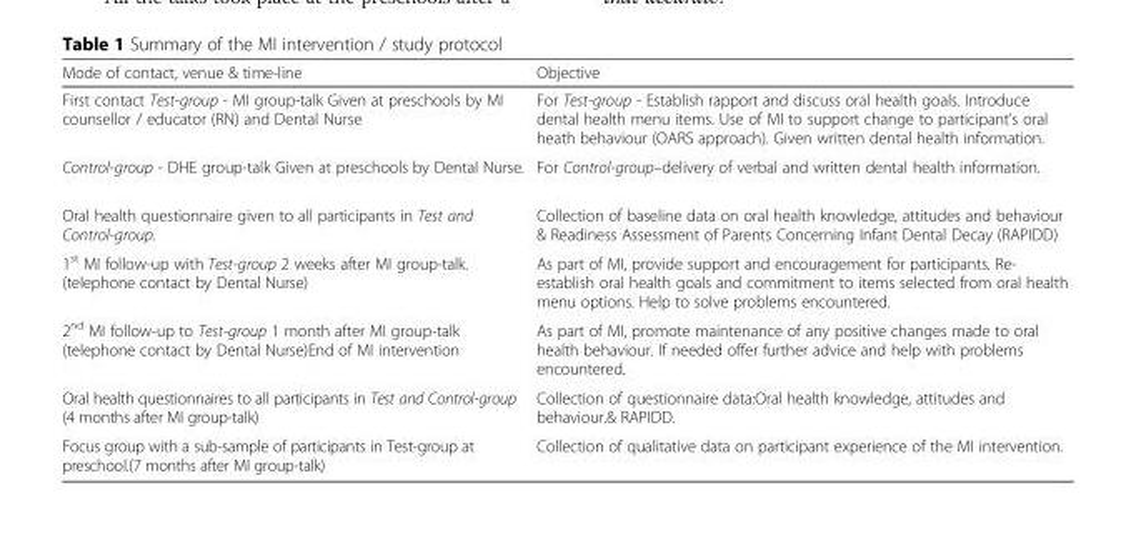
<table><thead><tr><td>Mode of contact, venue &amp; time-line</td><td>Objective</td></tr></thead><tbody><tr><td>First contact Test-group - MI group-talk Given at preschools by MI counsellor / educator (RN) and Dental Nurse</td><td>For Test-group - Establish rapport and discuss oral health goals. Introduce dental health menu items. Use of MI to support change to participant’s oral heath behaviour (OARS approach). Given written dental health information.</td></tr><tr><td>Control-group - DHE group-talk Given at preschools by Dental Nurse.</td><td>For Control-group–delivery of verbal and written dental health information.</td></tr><tr><td>Oral health questionnaire given to all participants in Test and Control-group.</td><td>Collection of baseline data on oral health knowledge, attitudes and behaviour &amp; Readiness Assessment of Parents Concerning Infant Dental Decay (RAPIDD)</td></tr><tr><td>1<sup>st</sup> MI follow-up with Test-group 2 weeks after MI group-talk. (telephone contact by Dental Nurse)</td><td>As part of MI, provide support and encouragement for participants. Re- establish oral health goals and commitment to items selected from oral health menu options. Help to solve problems encountered.</td></tr><tr><td>2<sup>nd</sup> MI follow-up to Test-group 1 month after MI group-talk (telephone contact by Dental Nurse)End of MI intervention</td><td>As part of MI, promote maintenance of any positive changes made to oral health behaviour. If needed offer further advice and help with problems encountered.</td></tr><tr><td>Oral health questionnaires to all participants in Test and Control-group (4 months after MI group-talk)</td><td>Collection of questionnaire data:Oral health knowledge, attitudes and behaviour.&amp; RAPIDD.</td></tr><tr><td>Focus group with a sub-sample of participants in Test-group at preschool.(7 months after MI group-talk)</td><td>Collection of qualitative data on participant experience of the MI intervention.</td></tr></tbody></table>